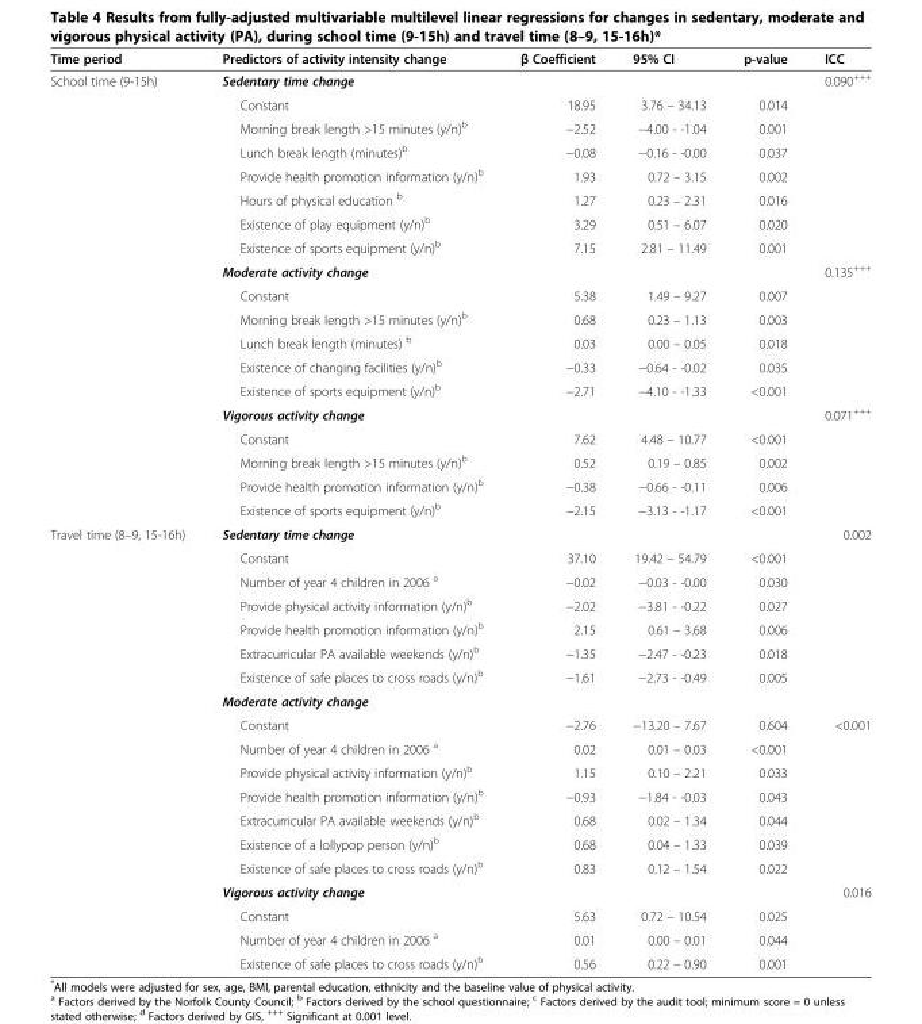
<table><thead><tr><td>Time period</td><td>Predictors of activity intensity change</td><td>β Coefficient</td><td>95% CI</td><td>p-value</td><td>ICC</td></tr></thead><tbody><tr><td rowspan="19">School time (9-15h)</td><td>Sedentary time change</td><td></td><td></td><td></td><td>0.090<sup>+++</sup></td></tr><tr><td>Constant</td><td>18.95</td><td>3.76 – 34.13</td><td>0.014</td><td></td></tr><tr><td>Morning break length &gt;15 minutes (y/n)<sup>b</sup></td><td>−2.52</td><td>−4.00 - -1.04</td><td>0.001</td><td></td></tr><tr><td>Lunch break length (minutes)<sup>b</sup></td><td>−0.08</td><td>−0.16 - -0.00</td><td>0.037</td><td></td></tr><tr><td>Provide health promotion information (y/n)<sup>b</sup></td><td>1.93</td><td>0.72 – 3.15</td><td>0.002</td><td></td></tr><tr><td>Hours of physical education <sup>b</sup></td><td>1.27</td><td>0.23 – 2.31</td><td>0.016</td><td></td></tr><tr><td>Existence of play equipment (y/n)<sup>b</sup></td><td>3.29</td><td>0.51 – 6.07</td><td>0.020</td><td></td></tr><tr><td>Existence of sports equipment (y/n)<sup>b</sup></td><td>7.15</td><td>2.81 – 11.49</td><td>0.001</td><td></td></tr><tr><td>Moderate activity change</td><td></td><td></td><td></td><td>0.135<sup>+++</sup></td></tr><tr><td>Constant</td><td>5.38</td><td>1.49 – 9.27</td><td>0.007</td><td></td></tr><tr><td>Morning break length &gt;15 minutes (y/n)<sup>b</sup></td><td>0.68</td><td>0.23 – 1.13</td><td>0.003</td><td></td></tr><tr><td>Lunch break length (minutes) <sup>b</sup></td><td>0.03</td><td>0.00 – 0.05</td><td>0.018</td><td></td></tr><tr><td>Existence of changing facilities (y/n)<sup>b</sup></td><td>−0.33</td><td>−0.64 - -0.02</td><td>0.035</td><td></td></tr><tr><td>Existence of sports equipment (y/n)<sup>b</sup></td><td>−2.71</td><td>−4.10 - -1.33</td><td>&lt;0.001</td><td></td></tr><tr><td>Vigorous activity change</td><td></td><td></td><td></td><td>0.071<sup>+++</sup></td></tr><tr><td>Constant</td><td>7.62</td><td>4.48 – 10.77</td><td>&lt;0.001</td><td></td></tr><tr><td>Morning break length &gt;15 minutes (y/n)<sup>b</sup></td><td>0.52</td><td>0.19 – 0.85</td><td>0.002</td><td></td></tr><tr><td>Provide health promotion information (y/n)<sup>b</sup></td><td>−0.38</td><td>−0.66 - -0.11</td><td>0.006</td><td></td></tr><tr><td>Existence of sports equipment (y/n)<sup>b</sup></td><td>−2.15</td><td>−3.13 - -1.17</td><td>&lt;0.001</td><td></td></tr><tr><td rowspan="19">Travel time (8–9, 15-16h)</td><td>Sedentary time change</td><td></td><td></td><td></td><td>0.002</td></tr><tr><td>Constant</td><td>37.10</td><td>19.42 – 54.79</td><td>&lt;0.001</td><td></td></tr><tr><td>Number of year 4 children in 2006 <sup>a</sup></td><td>−0.02</td><td>−0.03 - -0.00</td><td>0.030</td><td></td></tr><tr><td>Provide physical activity information (y/n)<sup>b</sup></td><td>−2.02</td><td>−3.81 - -0.22</td><td>0.027</td><td></td></tr><tr><td>Provide health promotion information (y/n)<sup>b</sup></td><td>2.15</td><td>0.61 – 3.68</td><td>0.006</td><td></td></tr><tr><td>Extracurricular PA available weekends (y/n)<sup>b</sup></td><td>−1.35</td><td>−2.47 - -0.23</td><td>0.018</td><td></td></tr><tr><td>Existence of safe places to cross roads (y/n)<sup>b</sup></td><td>−1.61</td><td>−2.73 - -0.49</td><td>0.005</td><td></td></tr><tr><td>Moderate activity change</td><td></td><td></td><td></td><td></td></tr><tr><td>Constant</td><td>−2.76</td><td>−13.20 – 7.67</td><td>0.604</td><td>&lt;0.001</td></tr><tr><td>Number of year 4 children in 2006 <sup>a</sup></td><td>0.02</td><td>0.01 – 0.03</td><td>&lt;0.001</td><td></td></tr><tr><td>Provide physical activity information (y/n)<sup>b</sup></td><td>1.15</td><td>0.10 – 2.21</td><td>0.033</td><td></td></tr><tr><td>Provide health promotion information (y/n)<sup>b</sup></td><td>−0.93</td><td>−1.84 - -0.03</td><td>0.043</td><td></td></tr><tr><td>Extracurricular PA available weekends (y/n)<sup>b</sup></td><td>0.68</td><td>0.02 – 1.34</td><td>0.044</td><td></td></tr><tr><td>Existence of a lollypop person (y/n)<sup>b</sup></td><td>0.68</td><td>0.04 – 1.33</td><td>0.039</td><td></td></tr><tr><td>Existence of safe places to cross roads (y/n)<sup>b</sup></td><td>0.83</td><td>0.12 – 1.54</td><td>0.022</td><td></td></tr><tr><td>Vigorous activity change</td><td></td><td></td><td></td><td>0.016</td></tr><tr><td>Constant</td><td>5.63</td><td>0.72 – 10.54</td><td>0.025</td><td></td></tr><tr><td>Number of year 4 children in 2006 <sup>a</sup></td><td>0.01</td><td>0.00 – 0.01</td><td>0.044</td><td></td></tr><tr><td>Existence of safe places to cross roads (y/n)<sup>b</sup></td><td>0.56</td><td>0.22 – 0.90</td><td>0.001</td><td></td></tr></tbody></table>